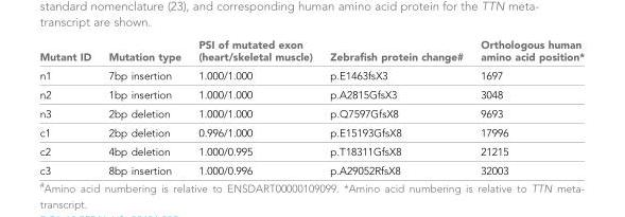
<table><thead><tr><td>Mutant ID</td><td>Mutation type</td><td>PSI of mutated exon (heart/skeletal muscle)</td><td>Zebrafish protein change#</td><td>Orthologous human amino acid position*</td></tr></thead><tbody><tr><td>n1</td><td>7bp insertion</td><td>1.000/1.000</td><td>p.E1463fsX3</td><td>1697</td></tr><tr><td>n2</td><td>1bp insertion</td><td>1.000/1.000</td><td>p.A2815GfsX3</td><td>3048</td></tr><tr><td>n3</td><td>2bp deletion</td><td>1.000/1.000</td><td>p.Q7597GfsX8</td><td>9693</td></tr><tr><td>c1</td><td>2bp deletion</td><td>0.996/1.000</td><td>p.E15193GfsX8</td><td>17996</td></tr><tr><td>c2</td><td>4bp deletion</td><td>1.000/0.995</td><td>p.T18311GfsX8</td><td>21215</td></tr><tr><td>c3</td><td>8bp insertion</td><td>1.000/0.996</td><td>p.A29052RfsX8</td><td>32003</td></tr></tbody></table>